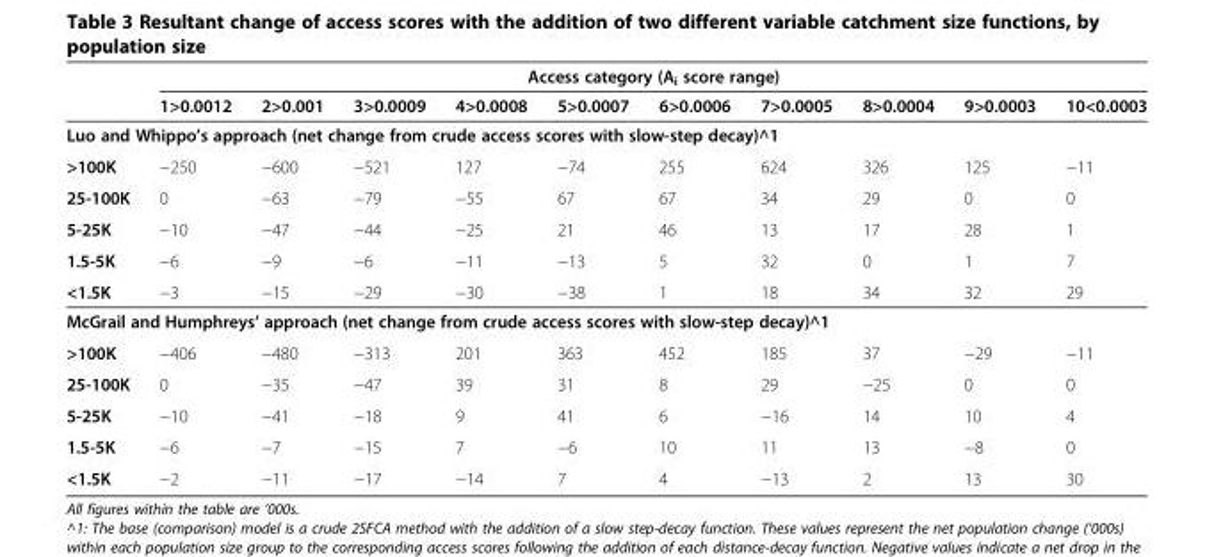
<table><thead><tr><td rowspan="2"></td><td colspan="10">Access category (A<sub>i</sub> score range)</td></tr><tr><td>1&gt;0.0012</td><td>2&gt;0.001</td><td>3&gt;0.0009</td><td>4&gt;0.0008</td><td>5&gt;0.0007</td><td>6&gt;0.0006</td><td>7&gt;0.0005</td><td>8&gt;0.0004</td><td>9&gt;0.0003</td><td>10&lt;0.0003</td></tr></thead><tbody><tr><td colspan="11">Luo and Whippo’s approach (net change from crude access scores with slow-step decay)^1</td></tr><tr><td>&gt;100K</td><td>−250</td><td>−600</td><td>−521</td><td>127</td><td>−74</td><td>255</td><td>624</td><td>326</td><td>125</td><td>−11</td></tr><tr><td>25-100K</td><td>0</td><td>−63</td><td>−79</td><td>−55</td><td>67</td><td>67</td><td>34</td><td>29</td><td>0</td><td>0</td></tr><tr><td>5-25K</td><td>−10</td><td>−47</td><td>−44</td><td>−25</td><td>21</td><td>46</td><td>13</td><td>17</td><td>28</td><td>1</td></tr><tr><td>1.5-5K</td><td>−6</td><td>−9</td><td>−6</td><td>−11</td><td>−13</td><td>5</td><td>32</td><td>0</td><td>1</td><td>7</td></tr><tr><td>&lt;1.5K</td><td>−3</td><td>−15</td><td>−29</td><td>−30</td><td>−38</td><td>1</td><td>18</td><td>34</td><td>32</td><td>29</td></tr><tr><td colspan="11">McGrail and Humphreys’ approach (net change from crude access scores with slow-step decay)^1</td></tr><tr><td>&gt;100K</td><td>−406</td><td>−480</td><td>−313</td><td>201</td><td>363</td><td>452</td><td>185</td><td>37</td><td>−29</td><td>−11</td></tr><tr><td>25-100K</td><td>0</td><td>−35</td><td>−47</td><td>39</td><td>31</td><td>8</td><td>29</td><td>−25</td><td>0</td><td>0</td></tr><tr><td>5-25K</td><td>−10</td><td>−41</td><td>−18</td><td>9</td><td>41</td><td>6</td><td>−16</td><td>14</td><td>10</td><td>4</td></tr><tr><td>1.5-5K</td><td>−6</td><td>−7</td><td>−15</td><td>7</td><td>−6</td><td>10</td><td>11</td><td>13</td><td>−8</td><td>0</td></tr><tr><td>&lt;1.5K</td><td>−2</td><td>−11</td><td>−17</td><td>−14</td><td>7</td><td>4</td><td>−13</td><td>2</td><td>13</td><td>30</td></tr></tbody></table>